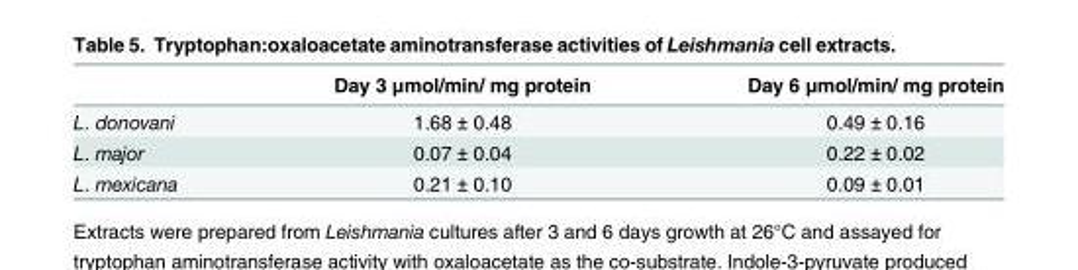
<table><thead><tr><td></td><td>Day 3 μmol/min/ mg protein</td><td>Day 6 μmol/min/ mg protein</td></tr></thead><tbody><tr><td>L. donovani</td><td>1.68 ± 0.48</td><td>0.49 ± 0.16</td></tr><tr><td>L. major</td><td>0.07 ± 0.04</td><td>0.22 ± 0.02</td></tr><tr><td>L. mexicana</td><td>0.21 ± 0.10</td><td>0.09 ± 0.01</td></tr></tbody></table>